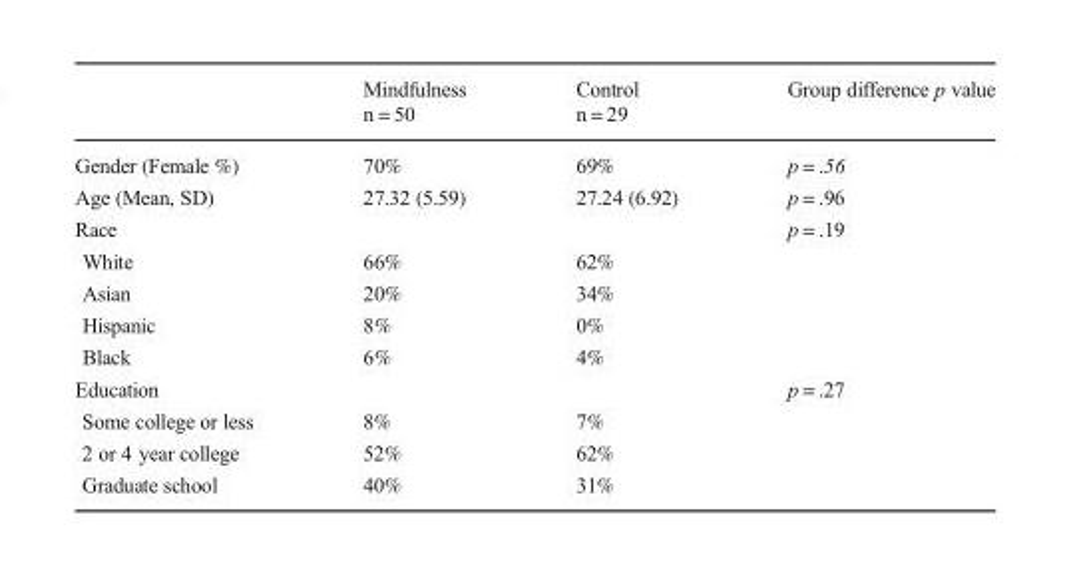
<table><thead><tr><td rowspan="2"></td><td rowspan="2">Mindfulness n = 50</td><td rowspan="2">Control n = 29</td><td rowspan="2">Group difference p value</td></tr><tr></tr></thead><tbody><tr><td>Gender (Female %)</td><td>70%</td><td>69%</td><td>p = .56</td></tr><tr><td>Age (Mean, SD)</td><td>27.32 (5.59)</td><td>27.24 (6.92)</td><td>p = .96</td></tr><tr><td>Race</td><td></td><td></td><td>p = .19</td></tr><tr><td>White</td><td>66%</td><td>62%</td><td></td></tr><tr><td>Asian</td><td>20%</td><td>34%</td><td></td></tr><tr><td>Hispanic</td><td>8%</td><td>0%</td><td></td></tr><tr><td>Black</td><td>6%</td><td>4%</td><td></td></tr><tr><td>Education</td><td></td><td></td><td>p = .27</td></tr><tr><td>Some college or less</td><td>8%</td><td>7%</td><td></td></tr><tr><td>2 or 4 year college</td><td>52%</td><td>62%</td><td></td></tr><tr><td>Graduate school</td><td>40%</td><td>31%</td><td></td></tr></tbody></table>